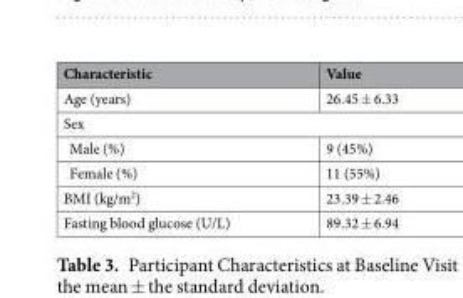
<table><thead><tr><td>Characteristic</td><td>Value</td></tr></thead><tbody><tr><td>Age (years)</td><td>26.45 ± 6.33</td></tr><tr><td colspan="2">Sex</td></tr><tr><td>Male (%)</td><td>9 (45%)</td></tr><tr><td>Female (%)</td><td>11 (55%)</td></tr><tr><td>BMI (kg/m<sup>2</sup>)</td><td>23.39 ± 2.46</td></tr><tr><td>Fasting blood glucose (U/L)</td><td>89.32 ± 6.94</td></tr></tbody></table>